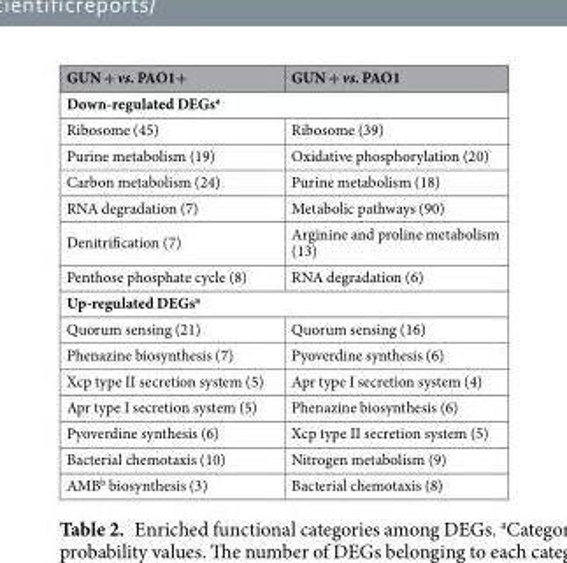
<table><thead><tr><td>GUN + vs. PAO1+</td><td>GUN + vs. PAO1</td></tr></thead><tbody><tr><td colspan="2">Down-regulated DEGs<sup>a</sup></td></tr><tr><td>Ribosome (45)</td><td>Ribosome (39)</td></tr><tr><td>Purine metabolism (19)</td><td>Oxidative phosphorylation (20)</td></tr><tr><td>Carbon metabolism (24)</td><td>Purine metabolism (18)</td></tr><tr><td>RNA degradation (7)</td><td>Metabolic pathways (90)</td></tr><tr><td>Denitrification (7)</td><td>Arginine and proline metabolism (13)</td></tr><tr><td>Penthose phosphate cycle (8)</td><td>RNA degradation (6)</td></tr><tr><td colspan="2">Up-regulated DEGs<sup>a</sup></td></tr><tr><td>Quorum sensing (21)</td><td>Quorum sensing (16)</td></tr><tr><td>Phenazine biosynthesis (7)</td><td>Pyoverdine synthesis (6)</td></tr><tr><td>Xcp type II secretion system (5)</td><td>Apr type I secretion system (4)</td></tr><tr><td>Apr type I secretion system (5)</td><td>Phenazine biosynthesis (6)</td></tr><tr><td>Pyoverdine synthesis (6)</td><td>Xcp type II secretion system (5)</td></tr><tr><td>Bacterial chemotaxis (10)</td><td>Nitrogen metabolism (9)</td></tr><tr><td>AMB<sup>b</sup> biosynthesis (3)</td><td>Bacterial chemotaxis (8)</td></tr></tbody></table>